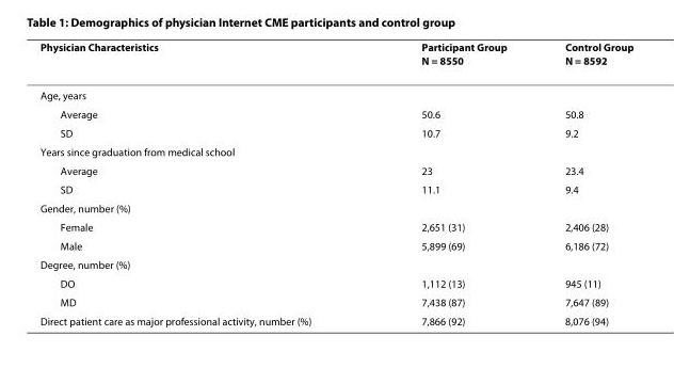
<table><thead><tr><td>Physician Characteristics</td><td>Participant Group N = 8550</td><td>Control Group N = 8592</td></tr></thead><tbody><tr><td colspan="3">Age, years</td></tr><tr><td>Average</td><td>50.6</td><td>50.8</td></tr><tr><td>SD</td><td>10.7</td><td>9.2</td></tr><tr><td colspan="3">Years since graduation from medical school</td></tr><tr><td>Average</td><td>23</td><td>23.4</td></tr><tr><td>SD</td><td>11.1</td><td>9.4</td></tr><tr><td colspan="3">Gender, number (%)</td></tr><tr><td>Female</td><td>2,651 (31)</td><td>2,406 (28)</td></tr><tr><td>Male</td><td>5,899 (69)</td><td>6,186 (72)</td></tr><tr><td colspan="3">Degree, number (%)</td></tr><tr><td>DO</td><td>1,112 (13)</td><td>945 (11)</td></tr><tr><td>MD</td><td>7,438 (87)</td><td>7,647 (89)</td></tr><tr><td>Direct patient care as major professional activity, number (%)</td><td>7,866 (92)</td><td>8,076 (94)</td></tr></tbody></table>